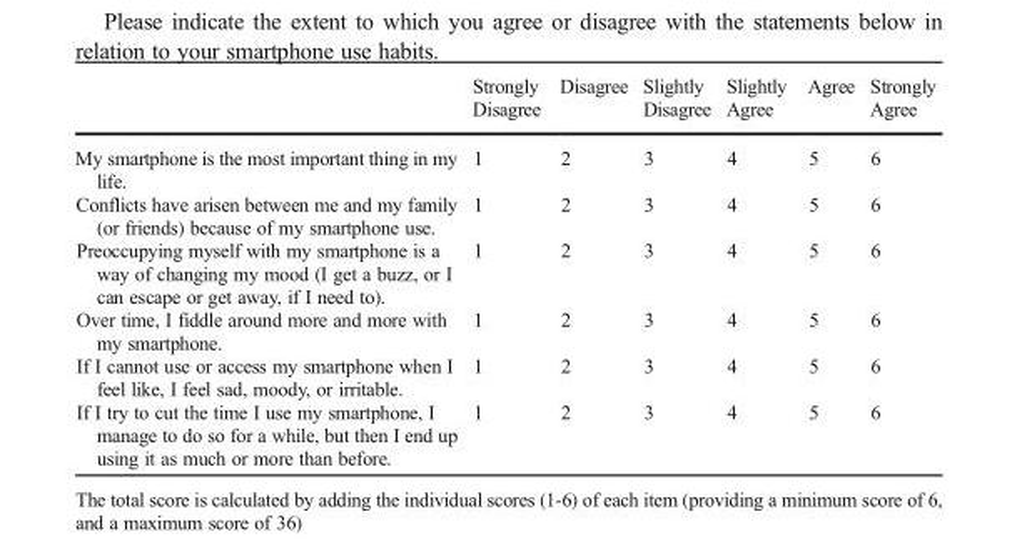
<table><thead><tr><td></td><td>Strongly Disagree</td><td>Disagree</td><td>Slightly Disagree</td><td>Slightly Agree</td><td>Agree</td><td>Strongly Agree</td></tr></thead><tbody><tr><td>My smartphone is the most important thing in my life.</td><td>1</td><td>2</td><td>3</td><td>4</td><td>5</td><td>6</td></tr><tr><td>Conflicts have arisen between me and my family (or friends) because of my smartphone use.</td><td>1</td><td>2</td><td>3</td><td>4</td><td>5</td><td>6</td></tr><tr><td>Preoccupying myself with my smartphone is a way of changing my mood (I get a buzz, or I can escape or get away, if I need to).</td><td>1</td><td>2</td><td>3</td><td>4</td><td>5</td><td>6</td></tr><tr><td>Over time, I fiddle around more and more with my smartphone.</td><td>1</td><td>2</td><td>3</td><td>4</td><td>5</td><td>6</td></tr><tr><td>If I cannot use or access my smartphone when I feel like, I feel sad, moody, or irritable.</td><td>1</td><td>2</td><td>3</td><td>4</td><td>5</td><td>6</td></tr><tr><td>If I try to cut the time I use my smartphone, I manage to do so for a while, but then I end up using it as much or more than before.</td><td>1</td><td>2</td><td>3</td><td>4</td><td>5</td><td>6</td></tr></tbody></table>